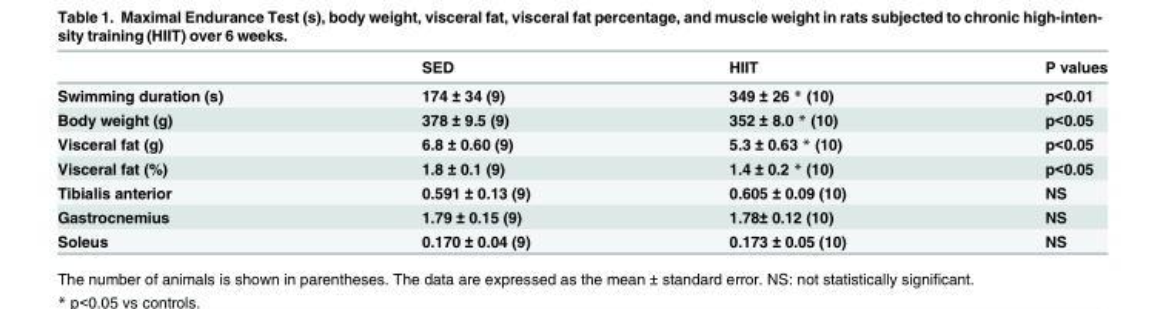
<table><thead><tr><td></td><td>SED</td><td>HIIT</td><td>P values</td></tr></thead><tbody><tr><td>Swimming duration (s)</td><td>174 ± 34 (9)</td><td>349 ± 26 * (10)</td><td>p&lt;0.01</td></tr><tr><td>Body weight (g)</td><td>378 ± 9.5 (9)</td><td>352 ± 8.0 * (10)</td><td>p&lt;0.05</td></tr><tr><td>Visceral fat (g)</td><td>6.8 ± 0.60 (9)</td><td>5.3 ± 0.63 * (10)</td><td>p&lt;0.05</td></tr><tr><td>Visceral fat (%)</td><td>1.8 ± 0.1 (9)</td><td>1.4 ± 0.2 * (10)</td><td>p&lt;0.05</td></tr><tr><td>Tibialis anterior</td><td>0.591 ± 0.13 (9)</td><td>0.605 ± 0.09 (10)</td><td>NS</td></tr><tr><td>Gastrocnemius</td><td>1.79 ± 0.15 (9)</td><td>1.78± 0.12 (10)</td><td>NS</td></tr><tr><td>Soleus</td><td>0.170 ± 0.04 (9)</td><td>0.173 ± 0.05 (10)</td><td>NS</td></tr></tbody></table>